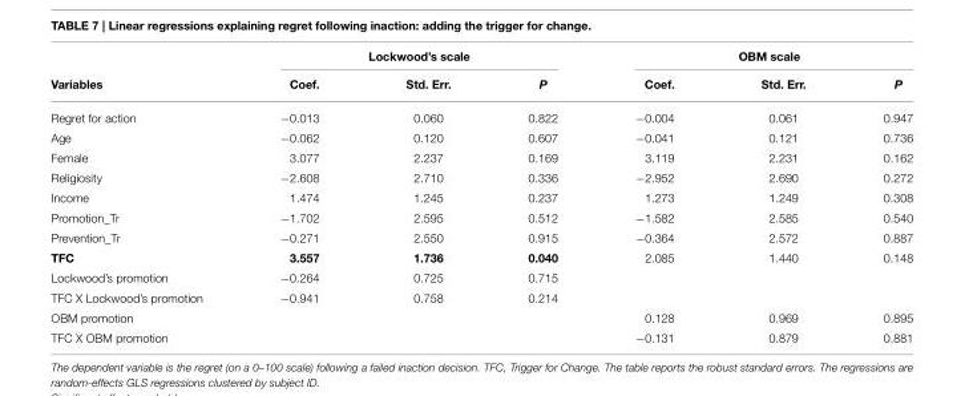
<table><thead><tr><td rowspan="2">Variables</td><td colspan="3">Lockwood’s scale</td><td colspan="3">OBM scale</td></tr><tr><td>Coef.</td><td>Std. Err.</td><td>P</td><td>Coef.</td><td>Std. Err.</td><td>P</td></tr></thead><tbody><tr><td>Regret for action</td><td>−0.013</td><td>0.060</td><td>0.822</td><td>−0.004</td><td>0.061</td><td>0.947</td></tr><tr><td>Age</td><td>−0.062</td><td>0.120</td><td>0.607</td><td>−0.041</td><td>0.121</td><td>0.736</td></tr><tr><td>Female</td><td>3.077</td><td>2.237</td><td>0.169</td><td>3.119</td><td>2.231</td><td>0.162</td></tr><tr><td>Religiosity</td><td>−2.608</td><td>2.710</td><td>0.336</td><td>−2.952</td><td>2.690</td><td>0.272</td></tr><tr><td>Income</td><td>1.474</td><td>1.245</td><td>0.237</td><td>1.273</td><td>1.249</td><td>0.308</td></tr><tr><td>Promotion_Tr</td><td>−1.702</td><td>2.595</td><td>0.512</td><td>−1.582</td><td>2.585</td><td>0.540</td></tr><tr><td>Prevention_Tr</td><td>−0.271</td><td>2.550</td><td>0.915</td><td>−0.364</td><td>2.572</td><td>0.887</td></tr><tr><td>TFC</td><td>3.557</td><td>1.736</td><td>0.040</td><td>2.085</td><td>1.440</td><td>0.148</td></tr><tr><td>Lockwood’s promotion</td><td>−0.264</td><td>0.725</td><td>0.715</td><td></td><td></td><td></td></tr><tr><td>TFC X Lockwood’s promotion</td><td>−0.941</td><td>0.758</td><td>0.214</td><td></td><td></td><td></td></tr><tr><td>OBM promotion</td><td></td><td></td><td></td><td>0.128</td><td>0.969</td><td>0.895</td></tr><tr><td>TFC X OBM promotion</td><td></td><td></td><td></td><td>−0.131</td><td>0.879</td><td>0.881</td></tr></tbody></table>